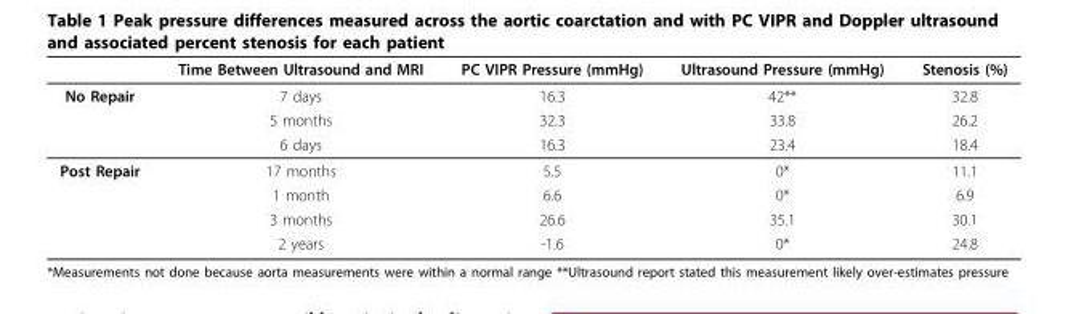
<table><thead><tr><td></td><td>Time Between Ultrasound and MRI</td><td>PC VIPR Pressure (mmHg)</td><td>Ultrasound Pressure (mmHg)</td><td>Stenosis (%)</td></tr></thead><tbody><tr><td rowspan="3">No Repair</td><td>7 days</td><td>16.3</td><td>42**</td><td>32.8</td></tr><tr><td>5 months</td><td>32.3</td><td>33.8</td><td>26.2</td></tr><tr><td>6 days</td><td>16.3</td><td>23.4</td><td>18.4</td></tr><tr><td rowspan="4">Post Repair</td><td>17 months</td><td>5.5</td><td>0*</td><td>11.1</td></tr><tr><td>1 month</td><td>6.6</td><td>0*</td><td>6.9</td></tr><tr><td>3 months</td><td>26.6</td><td>35.1</td><td>30.1</td></tr><tr><td>2 years</td><td>-1.6</td><td>0*</td><td>24.8</td></tr></tbody></table>